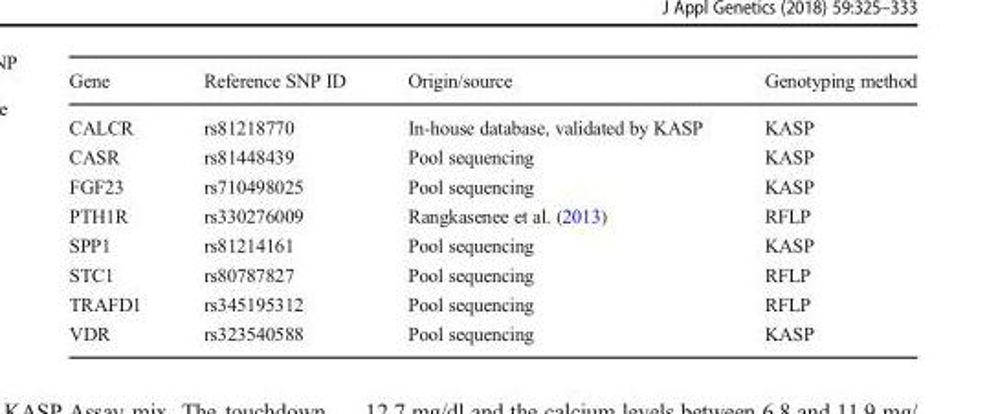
<table><thead><tr><td>Gene</td><td>Reference SNP ID</td><td>Origin/source</td><td>Genotyping method</td></tr></thead><tbody><tr><td>CALCR</td><td>rs81218770</td><td>In-house database, validated by KASP</td><td>KASP</td></tr><tr><td>CASR</td><td>rs81448439</td><td>Pool sequencing</td><td>KASP</td></tr><tr><td>FGF23</td><td>rs710498025</td><td>Pool sequencing</td><td>KASP</td></tr><tr><td>PTH1R</td><td>rs330276009</td><td>Rangkasenee et al. (2013)</td><td>RFLP</td></tr><tr><td>SPP1</td><td>rs81214161</td><td>Pool sequencing</td><td>KASP</td></tr><tr><td>STC1</td><td>rs80787827</td><td>Pool sequencing</td><td>RFLP</td></tr><tr><td>TRAFD1</td><td>rs345195312</td><td>Pool sequencing</td><td>RFLP</td></tr><tr><td>VDR</td><td>rs323540588</td><td>Pool sequencing</td><td>KASP</td></tr></tbody></table>